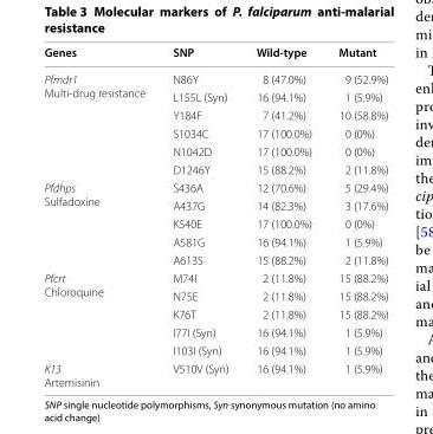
<table><thead><tr><td>Genes</td><td>SNP</td><td>Wild‑type</td><td>Mutant</td></tr></thead><tbody><tr><td rowspan="6">Pfmdr1 Multi‑drug resistance</td><td>N86Y</td><td>8 (47.0%)</td><td>9 (52.9%)</td></tr><tr><td>L155L (Syn)</td><td>16 (94.1%)</td><td>1 (5.9%)</td></tr><tr><td>Y184F</td><td>7 (41.2%)</td><td>10 (58.8%)</td></tr><tr><td>S1034C</td><td>17 (100.0%)</td><td>0 (0%)</td></tr><tr><td>N1042D</td><td>17 (100.0%)</td><td>0 (0%)</td></tr><tr><td>D1246Y</td><td>15 (88.2%)</td><td>2 (11.8%)</td></tr><tr><td rowspan="5">Pfdhps Sulfadoxine</td><td>S436A</td><td>12 (70.6%)</td><td>5 (29.4%)</td></tr><tr><td>A437G</td><td>14 (82.3%)</td><td>3 (17.6%)</td></tr><tr><td>K540E</td><td>17 (100.0%)</td><td>0 (0%)</td></tr><tr><td>A581G</td><td>16 (94.1%)</td><td>1 (5.9%)</td></tr><tr><td>A613S</td><td>15 (88.2%)</td><td>2 (11.8%)</td></tr><tr><td rowspan="5">Pfcrt Chloroquine</td><td>M74I</td><td>2 (11.8%)</td><td>15 (88.2%)</td></tr><tr><td>N75E</td><td>2 (11.8%)</td><td>15 (88.2%)</td></tr><tr><td>K76T</td><td>2 (11.8%)</td><td>15 (88.2%)</td></tr><tr><td>I77I (Syn)</td><td>16 (94.1%)</td><td>1 (5.9%)</td></tr><tr><td>I103I (Syn)</td><td>16 (94.1%)</td><td>1 (5.9%)</td></tr><tr><td>K13 Artemisinin</td><td>V510V (Syn)</td><td>16 (94.1%)</td><td>1 (5.9%)</td></tr></tbody></table>